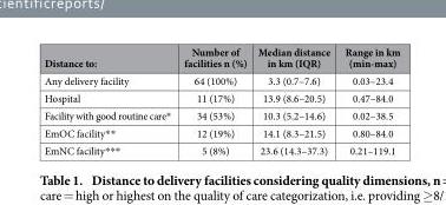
<table><thead><tr><td>Distance to:</td><td>Number of facilities n (%)</td><td>Median distance in km (IQR)</td><td>Range in km (min-max)</td></tr></thead><tbody><tr><td>Any delivery facility</td><td>64 (100%)</td><td>3.3 (0.7–7.6)</td><td>0.03–23.4</td></tr><tr><td>Hospital</td><td>11 (17%)</td><td>13.9 (8.6–20.5)</td><td>0.47–84.0</td></tr><tr><td>Facility with good routine care*</td><td>34 (53%)</td><td>10.3 (5.2–14.6)</td><td>0.02–38.5</td></tr><tr><td>EmOC facility**</td><td>12 (19%)</td><td>14.1 (8.3–21.5)</td><td>0.80–84.0</td></tr><tr><td>EmNC facility***</td><td>5 (8%)</td><td>23.6 (14.3–37.3)</td><td>0.21–119.1</td></tr></tbody></table>